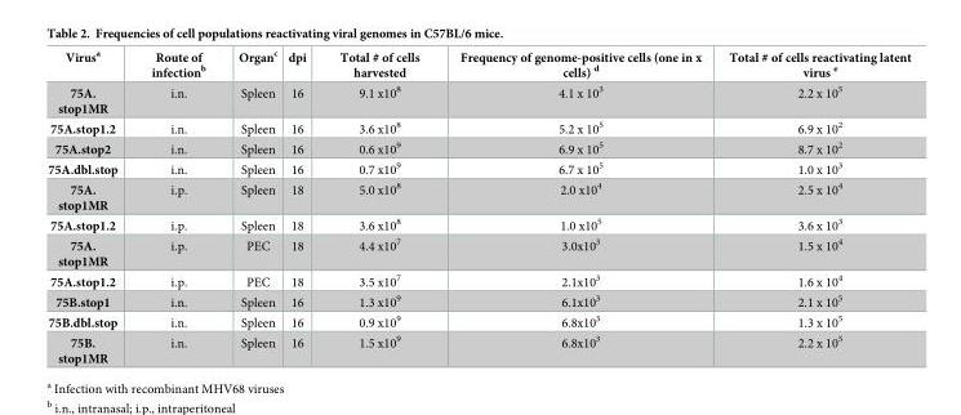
<table><thead><tr><td>Virus<sup>a</sup></td><td>Route of infection<sup>b</sup></td><td>Organ<sup>c</sup></td><td>dpi</td><td>Total # of cells harvested</td><td>Frequency of genome-positive cells (one in x cells) <sup>d</sup></td><td>Total # of cells reactivating latent virus <sup>e</sup></td></tr></thead><tbody><tr><td>75A. stop1MR</td><td>i.n.</td><td>Spleen</td><td>16</td><td>9.1 x10<sup>8</sup></td><td>4.1 x 10<sup>3</sup></td><td>2.2 x 10<sup>5</sup></td></tr><tr><td>75A.stop1.2</td><td>i.n.</td><td>Spleen</td><td>16</td><td>3.6 x10<sup>8</sup></td><td>5.2 x 10<sup>5</sup></td><td>6.9 x 10<sup>2</sup></td></tr><tr><td>75A.stop2</td><td>i.n.</td><td>Spleen</td><td>16</td><td>0.6 x10<sup>9</sup></td><td>6.9 x 10<sup>5</sup></td><td>8.7 x 10<sup>2</sup></td></tr><tr><td>75A.dbl.stop</td><td>i.n.</td><td>Spleen</td><td>16</td><td>0.7 x10<sup>9</sup></td><td>6.7 x 10<sup>5</sup></td><td>1.0 x 10<sup>3</sup></td></tr><tr><td>75A. stop1MR</td><td>i.p.</td><td>Spleen</td><td>18</td><td>5.0 x10<sup>8</sup></td><td>2.0 x10<sup>4</sup></td><td>2.5 x 10<sup>4</sup></td></tr><tr><td>75A.stop1.2</td><td>i.p.</td><td>Spleen</td><td>18</td><td>3.6 x10<sup>8</sup></td><td>1.0 x10<sup>5</sup></td><td>3.6 x 10<sup>3</sup></td></tr><tr><td>75A. stop1MR</td><td>i.p.</td><td>PEC</td><td>18</td><td>4.4 x10<sup>7</sup></td><td>3.0x10<sup>3</sup></td><td>1.5 x 10<sup>4</sup></td></tr><tr><td>75A.stop1.2</td><td>i.p.</td><td>PEC</td><td>18</td><td>3.5 x10<sup>7</sup></td><td>2.1x10<sup>3</sup></td><td>1.6 x 10<sup>4</sup></td></tr><tr><td>75B.stop1</td><td>i.n.</td><td>Spleen</td><td>16</td><td>1.3 x10<sup>9</sup></td><td>6.1x10<sup>3</sup></td><td>2.1 x 10<sup>5</sup></td></tr><tr><td>75B.dbl.stop</td><td>i.n.</td><td>Spleen</td><td>16</td><td>0.9 x10<sup>9</sup></td><td>6.8x10<sup>3</sup></td><td>1.3 x 10<sup>5</sup></td></tr><tr><td>75B. stop1MR</td><td>i.n.</td><td>Spleen</td><td>16</td><td>1.5 x10<sup>9</sup></td><td>6.8x10<sup>3</sup></td><td>2.2 x 10<sup>5</sup></td></tr></tbody></table>